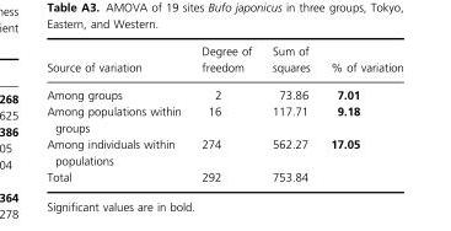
<table><thead><tr><td>Source of variation</td><td>Degree of freedom</td><td>Sum of squares</td><td>% of variation</td></tr></thead><tbody><tr><td>Among groups</td><td>2</td><td>73.86</td><td>7.01</td></tr><tr><td>Among populations within groups</td><td>16</td><td>117.71</td><td>9.18</td></tr><tr><td>Among individuals within populations</td><td>274</td><td>562.27</td><td>17.05</td></tr><tr><td>Total</td><td>292</td><td>753.84</td><td></td></tr></tbody></table>